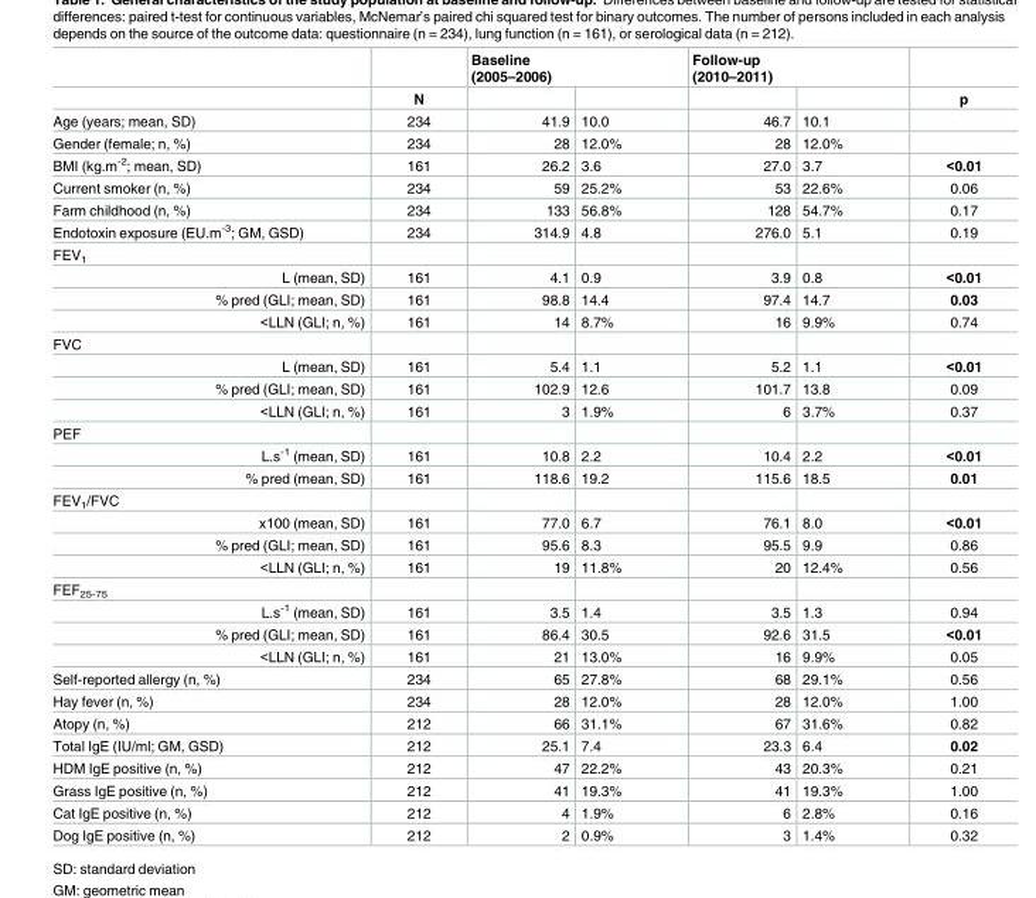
<table><thead><tr><td rowspan="2"></td><td rowspan="2">N</td><td colspan="2">Baseline (2005–2006)</td><td colspan="2">Follow-up (2010–2011)</td><td rowspan="2">p</td></tr><tr><td></td><td></td><td></td><td></td></tr></thead><tbody><tr><td>Age (years; mean, SD)</td><td>234</td><td>41.9</td><td>10.0</td><td>46.7</td><td>10.1</td><td></td></tr><tr><td>Gender (female; n, %)</td><td>234</td><td>28</td><td>12.0%</td><td>28</td><td>12.0%</td><td></td></tr><tr><td>BMI (kg.m<sup>-2</sup>; mean, SD)</td><td>161</td><td>26.2</td><td>3.6</td><td>27.0</td><td>3.7</td><td>&lt;0.01</td></tr><tr><td>Current smoker (n, %)</td><td>234</td><td>59</td><td>25.2%</td><td>53</td><td>22.6%</td><td>0.06</td></tr><tr><td>Farm childhood (n, %)</td><td>234</td><td>133</td><td>56.8%</td><td>128</td><td>54.7%</td><td>0.17</td></tr><tr><td>Endotoxin exposure (EU.m<sup>-3</sup>; GM, GSD)</td><td>234</td><td>314.9</td><td>4.8</td><td>276.0</td><td>5.1</td><td>0.19</td></tr><tr><td colspan="7">FEV<sub>1</sub></td></tr><tr><td>L (mean, SD)</td><td>161</td><td>4.1</td><td>0.9</td><td>3.9</td><td>0.8</td><td>&lt;0.01</td></tr><tr><td>% pred (GLI; mean, SD)</td><td>161</td><td>98.8</td><td>14.4</td><td>97.4</td><td>14.7</td><td>0.03</td></tr><tr><td>&lt;LLN (GLI; n, %)</td><td>161</td><td>14</td><td>8.7%</td><td>16</td><td>9.9%</td><td>0.74</td></tr><tr><td colspan="7">FVC</td></tr><tr><td>L (mean, SD)</td><td>161</td><td>5.4</td><td>1.1</td><td>5.2</td><td>1.1</td><td>&lt;0.01</td></tr><tr><td>% pred (GLI; mean, SD)</td><td>161</td><td>102.9</td><td>12.6</td><td>101.7</td><td>13.8</td><td>0.09</td></tr><tr><td>&lt;LLN (GLI; n, %)</td><td>161</td><td>3</td><td>1.9%</td><td>6</td><td>3.7%</td><td>0.37</td></tr><tr><td colspan="7">PEF</td></tr><tr><td>L.s<sup>-1</sup> (mean, SD)</td><td>161</td><td>10.8</td><td>2.2</td><td>10.4</td><td>2.2</td><td>&lt;0.01</td></tr><tr><td>% pred (mean, SD)</td><td>161</td><td>118.6</td><td>19.2</td><td>115.6</td><td>18.5</td><td>0.01</td></tr><tr><td colspan="7">FEV<sub>1</sub>/FVC</td></tr><tr><td>x100 (mean, SD)</td><td>161</td><td>77.0</td><td>6.7</td><td>76.1</td><td>8.0</td><td>&lt;0.01</td></tr><tr><td>% pred (GLI; mean, SD)</td><td>161</td><td>95.6</td><td>8.3</td><td>95.5</td><td>9.9</td><td>0.86</td></tr><tr><td>&lt;LLN (GLI; n, %)</td><td>161</td><td>19</td><td>11.8%</td><td>20</td><td>12.4%</td><td>0.56</td></tr><tr><td colspan="7">FEF<sub>25-75</sub></td></tr><tr><td>L.s<sup>-1</sup> (mean, SD)</td><td>161</td><td>3.5</td><td>1.4</td><td>3.5</td><td>1.3</td><td>0.94</td></tr><tr><td>% pred (GLI; mean, SD)</td><td>161</td><td>86.4</td><td>30.5</td><td>92.6</td><td>31.5</td><td>&lt;0.01</td></tr><tr><td>&lt;LLN (GLI; n, %)</td><td>161</td><td>21</td><td>13.0%</td><td>16</td><td>9.9%</td><td>0.05</td></tr><tr><td>Self-reported allergy (n, %)</td><td>234</td><td>65</td><td>27.8%</td><td>68</td><td>29.1%</td><td>0.56</td></tr><tr><td>Hay fever (n, %)</td><td>234</td><td>28</td><td>12.0%</td><td>28</td><td>12.0%</td><td>1.00</td></tr><tr><td>Atopy (n, %)</td><td>212</td><td>66</td><td>31.1%</td><td>67</td><td>31.6%</td><td>0.82</td></tr><tr><td>Total IgE (IU/ml; GM, GSD)</td><td>212</td><td>25.1</td><td>7.4</td><td>23.3</td><td>6.4</td><td>0.02</td></tr><tr><td>HDM IgE positive (n, %)</td><td>212</td><td>47</td><td>22.2%</td><td>43</td><td>20.3%</td><td>0.21</td></tr><tr><td>Grass IgE positive (n, %)</td><td>212</td><td>41</td><td>19.3%</td><td>41</td><td>19.3%</td><td>1.00</td></tr><tr><td>Cat IgE positive (n, %)</td><td>212</td><td>4</td><td>1.9%</td><td>6</td><td>2.8%</td><td>0.16</td></tr><tr><td>Dog IgE positive (n, %)</td><td>212</td><td>2</td><td>0.9%</td><td>3</td><td>1.4%</td><td>0.32</td></tr></tbody></table>